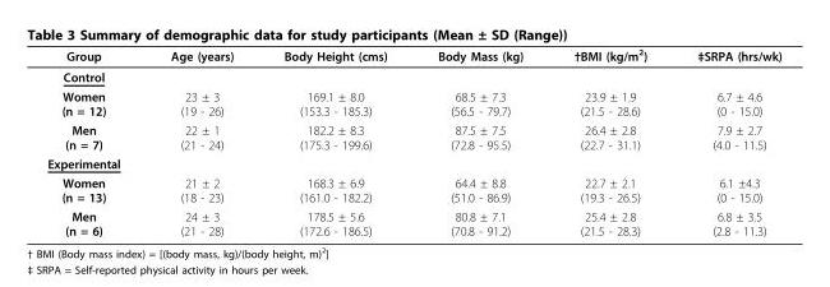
<table><thead><tr><td>Group</td><td>Age (years)</td><td>Body Height (cms)</td><td>Body Mass (kg)</td><td>†BMI (kg/m<sup>2</sup>)</td><td>‡SRPA (hrs/wk)</td></tr></thead><tbody><tr><td colspan="6">Control</td></tr><tr><td>Women (n = 12)</td><td>23 ± 3 (19 - 26)</td><td>169.1 ± 8.0 (153.3 - 185.3)</td><td>68.5 ± 7.3 (56.5 - 79.7)</td><td>23.9 ± 1.9 (21.5 - 28.6)</td><td>6.7 ± 4.6 (0 - 15.0)</td></tr><tr><td>Men (n = 7)</td><td>22 ± 1 (21 - 24)</td><td>182.2 ± 8.3 (175.3 - 199.6)</td><td>87.5 ± 7.5 (72.8 - 95.5)</td><td>26.4 ± 2.8 (22.7 - 31.1)</td><td>7.9 ± 2.7 (4.0 - 11.5)</td></tr><tr><td colspan="6">Experimental</td></tr><tr><td>Women (n = 13)</td><td>21 ± 2 (18 - 23)</td><td>168.3 ± 6.9 (161.0 - 182.2)</td><td>64.4 ± 8.8 (51.0 - 86.9)</td><td>22.7 ± 2.1 (19.3 - 26.5)</td><td>6.1 ±4.3 (0 - 15.0)</td></tr><tr><td>Men (n = 6)</td><td>24 ± 3 (21 - 28)</td><td>178.5 ± 5.6 (172.6 - 186.5)</td><td>80.8 ± 7.1 (70.8 - 91.2)</td><td>25.4 ± 2.8 (21.5 - 28.3)</td><td>6.8 ± 3.5 (2.8 - 11.3)</td></tr></tbody></table>